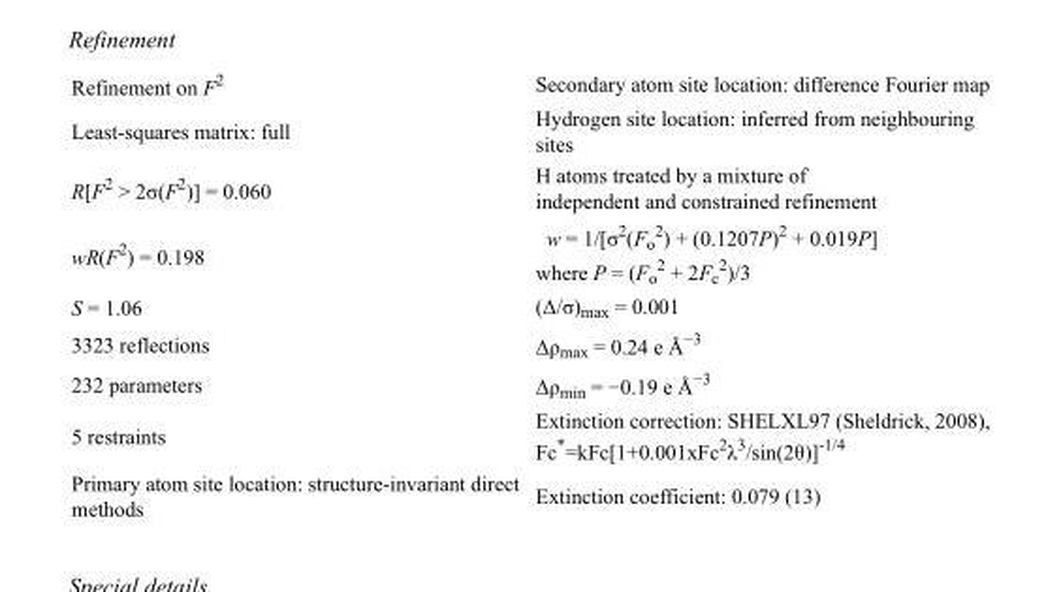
<table><tbody><tr><td>Refinement on F<sup>2</sup></td><td>Secondary atom site location: difference Fourier map</td></tr><tr><td>Least-squares matrix: full</td><td>Hydrogen site location: inferred from neighbouring sites</td></tr><tr><td>R[F<sup>2</sup> &gt; 2σ(F<sup>2</sup>)] = 0.060</td><td>H atoms treated by a mixture of independent and constrained refinement</td></tr><tr><td>wR(F<sup>2</sup>) = 0.198</td><td>w = 1/[σ<sup>2</sup>(F<sub>o</sub> <sup>2</sup>) + (0.1207P)<sup>2</sup> + 0.019P] where P = (F<sub>o</sub> <sup>2</sup> + 2F<sub>c</sub> <sup>2</sup>)/3</td></tr><tr><td>S = 1.06</td><td>(Δ/σ)<sub>max</sub> = 0.001</td></tr><tr><td>3323 reflections</td><td>Δρ<sub>max</sub> = 0.24 e Å<sup>−3</sup></td></tr><tr><td>232 parameters</td><td>Δρ<sub>min</sub> = −0.19 e Å<sup>−3</sup></td></tr><tr><td>5 restraints</td><td>Extinction correction: SHELXL97 (Sheldrick, 2008), Fc*=kFc[1+0.001xFc<sup>2</sup>λ<sup>3</sup>/sin(2θ)]<sup>-1/4</sup></td></tr><tr><td>Primary atom site location: structure-invariant direct methods</td><td>Extinction coefficient: 0.079 (13)</td></tr></tbody></table>